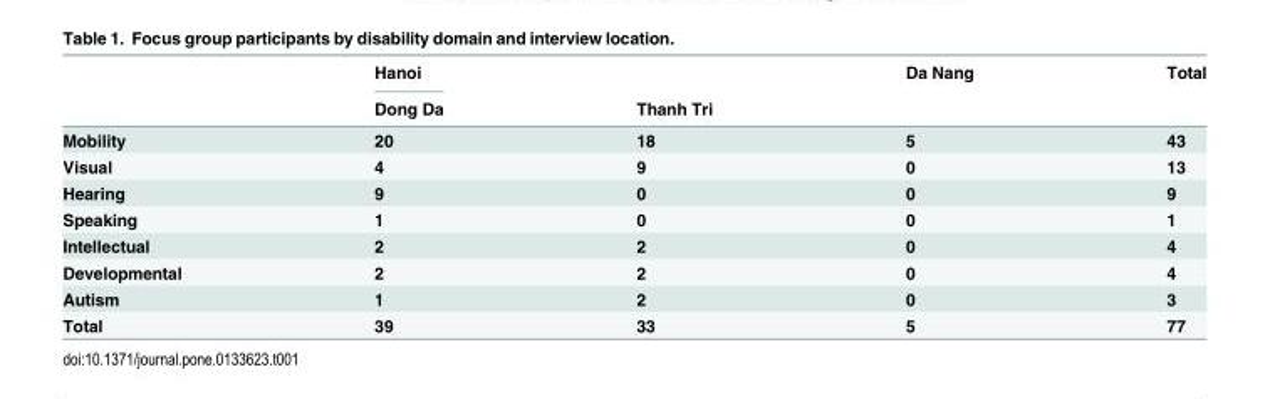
<table><thead><tr><td rowspan="2"></td><td rowspan="2">Hanoi Dong Da</td><td rowspan="2">Thanh Tri</td><td rowspan="2">Da Nang</td><td rowspan="2">Total</td></tr><tr></tr></thead><tbody><tr><td>Mobility</td><td>20</td><td>18</td><td>5</td><td>43</td></tr><tr><td>Visual</td><td>4</td><td>9</td><td>0</td><td>13</td></tr><tr><td>Hearing</td><td>9</td><td>0</td><td>0</td><td>9</td></tr><tr><td>Speaking</td><td>1</td><td>0</td><td>0</td><td>1</td></tr><tr><td>Intellectual</td><td>2</td><td>2</td><td>0</td><td>4</td></tr><tr><td>Developmental</td><td>2</td><td>2</td><td>0</td><td>4</td></tr><tr><td>Autism</td><td>1</td><td>2</td><td>0</td><td>3</td></tr><tr><td>Total</td><td>39</td><td>33</td><td>5</td><td>77</td></tr></tbody></table>